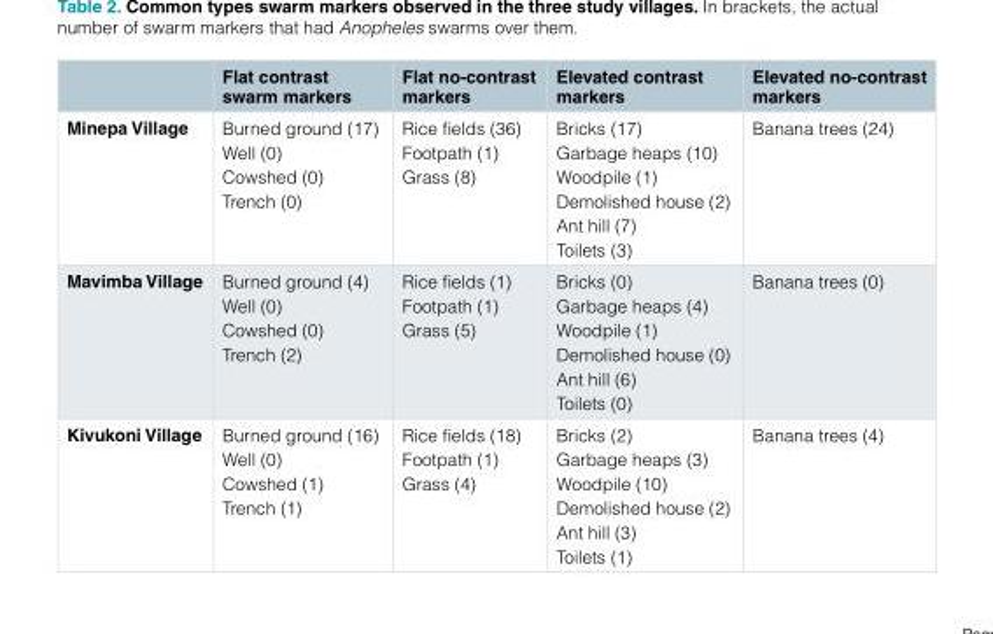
<table><thead><tr><td></td><td>Flat contrast swarm markers</td><td>Flat no-contrast markers</td><td>Elevated contrast markers</td><td>Elevated no-contrast markers</td></tr></thead><tbody><tr><td>Minepa Village</td><td>Burned ground (17) Well (0) Cowshed (0) Trench (0)</td><td>Rice fields (36) Footpath (1) Grass (8)</td><td>Bricks (17) Garbage heaps (10) Woodpile (1) Demolished house (2) Ant hill (7) Toilets (3)</td><td>Banana trees (24)</td></tr><tr><td>Mavimba Village</td><td>Burned ground (4) Well (0) Cowshed (0) Trench (2)</td><td>Rice fields (1) Footpath (1) Grass (5)</td><td>Bricks (0) Garbage heaps (4) Woodpile (1) Demolished house (0) Ant hill (6) Toilets (0)</td><td>Banana trees (0)</td></tr><tr><td>Kivukoni Village</td><td>Burned ground (16) Well (0) Cowshed (1) Trench (1)</td><td>Rice fields (18) Footpath (1) Grass (4)</td><td>Bricks (2) Garbage heaps (3) Woodpile (10) Demolished house (2) Ant hill (3) Toilets (1)</td><td>Banana trees (4)</td></tr></tbody></table>